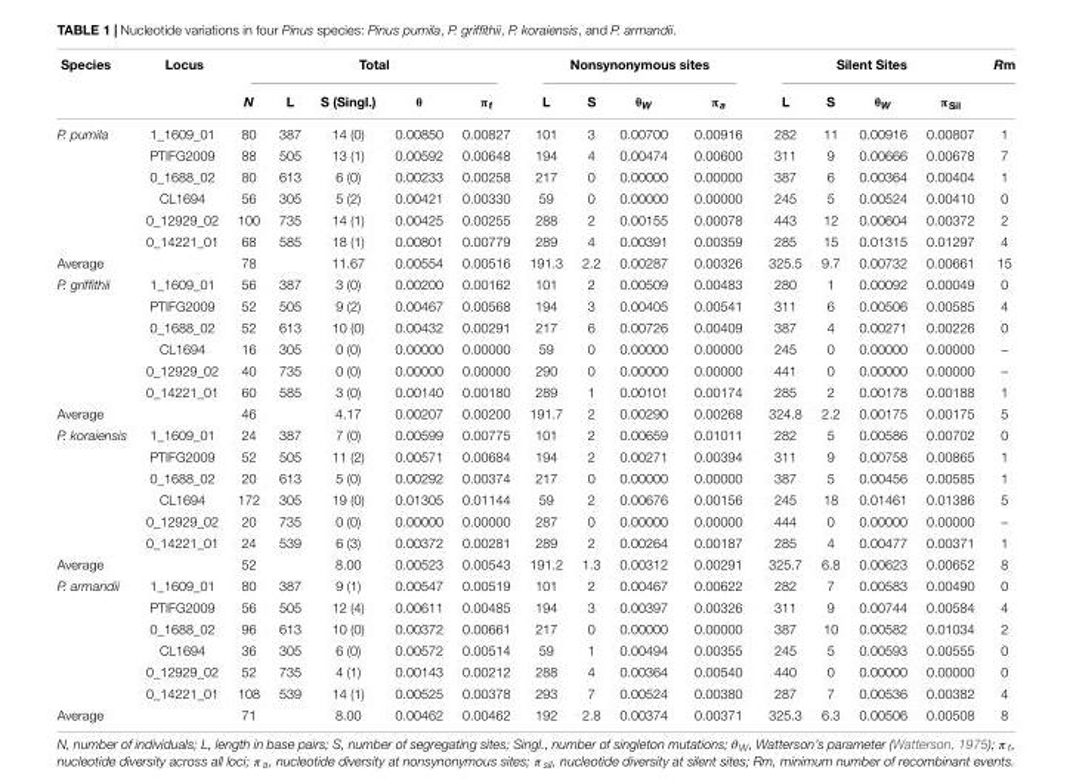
<table><thead><tr><td rowspan="2">Species</td><td rowspan="2">Locus</td><td colspan="5">Total</td><td colspan="4">Nonsynonymous sites</td><td colspan="4">Silent Sites</td><td rowspan="2">Rm</td></tr><tr><td>N</td><td>L</td><td>S (Singl.)</td><td>θ</td><td>π<sub>t</sub></td><td>L</td><td>S</td><td>θ<sub>W</sub></td><td>π<sub>a</sub></td><td>L</td><td>S</td><td>θ<sub>W</sub></td><td>π<sub>Sil</sub></td></tr></thead><tbody><tr><td rowspan="6">P. pumila</td><td>1_1609_01</td><td>80</td><td>387</td><td>14 (0)</td><td>0.00850</td><td>0.00827</td><td>101</td><td>3</td><td>0.00700</td><td>0.00916</td><td>282</td><td>11</td><td>0.00916</td><td>0.00807</td><td>1</td></tr><tr><td>PTIFG2009</td><td>88</td><td>505</td><td>13 (1)</td><td>0.00592</td><td>0.00648</td><td>194</td><td>4</td><td>0.00474</td><td>0.00600</td><td>311</td><td>9</td><td>0.00666</td><td>0.00678</td><td>7</td></tr><tr><td>0_1688_02</td><td>80</td><td>613</td><td>6 (0)</td><td>0.00233</td><td>0.00258</td><td>217</td><td>0</td><td>0.00000</td><td>0.00000</td><td>387</td><td>6</td><td>0.00364</td><td>0.00404</td><td>1</td></tr><tr><td>CL1694</td><td>56</td><td>305</td><td>5 (2)</td><td>0.00421</td><td>0.00330</td><td>59</td><td>0</td><td>0.00000</td><td>0.00000</td><td>245</td><td>5</td><td>0.00524</td><td>0.00410</td><td>0</td></tr><tr><td>0_12929_02</td><td>100</td><td>735</td><td>14 (1)</td><td>0.00425</td><td>0.00255</td><td>288</td><td>2</td><td>0.00155</td><td>0.00078</td><td>443</td><td>12</td><td>0.00604</td><td>0.00372</td><td>2</td></tr><tr><td>0_14221_01</td><td>68</td><td>585</td><td>18 (1)</td><td>0.00801</td><td>0.00779</td><td>289</td><td>4</td><td>0.00391</td><td>0.00359</td><td>285</td><td>15</td><td>0.01315</td><td>0.01297</td><td>4</td></tr><tr><td>Average</td><td></td><td>78</td><td></td><td>11.67</td><td>0.00554</td><td>0.00516</td><td>191.3</td><td>2.2</td><td>0.00287</td><td>0.00326</td><td>325.5</td><td>9.7</td><td>0.00732</td><td>0.00661</td><td>15</td></tr><tr><td rowspan="6">P. griffithii</td><td>1_1609_01</td><td>56</td><td>387</td><td>3 (0)</td><td>0.00200</td><td>0.00162</td><td>101</td><td>2</td><td>0.00509</td><td>0.00483</td><td>280</td><td>1</td><td>0.00092</td><td>0.00049</td><td>0</td></tr><tr><td>PTIFG2009</td><td>52</td><td>505</td><td>9 (2)</td><td>0.00467</td><td>0.00568</td><td>194</td><td>3</td><td>0.00405</td><td>0.00541</td><td>311</td><td>6</td><td>0.00506</td><td>0.00585</td><td>4</td></tr><tr><td>0_1688_02</td><td>52</td><td>613</td><td>10 (0)</td><td>0.00432</td><td>0.00291</td><td>217</td><td>6</td><td>0.00726</td><td>0.00409</td><td>387</td><td>4</td><td>0.00271</td><td>0.00226</td><td>0</td></tr><tr><td>CL1694</td><td>16</td><td>305</td><td>0 (0)</td><td>0.00000</td><td>0.00000</td><td>59</td><td>0</td><td>0.00000</td><td>0.00000</td><td>245</td><td>0</td><td>0.00000</td><td>0.00000</td><td>–</td></tr><tr><td>0_12929_02</td><td>40</td><td>735</td><td>0 (0)</td><td>0.00000</td><td>0.00000</td><td>290</td><td>0</td><td>0.00000</td><td>0.00000</td><td>441</td><td>0</td><td>0.00000</td><td>0.00000</td><td>–</td></tr><tr><td>0_14221_01</td><td>60</td><td>585</td><td>3 (0)</td><td>0.00140</td><td>0.00180</td><td>289</td><td>1</td><td>0.00101</td><td>0.00174</td><td>285</td><td>2</td><td>0.00178</td><td>0.00188</td><td>1</td></tr><tr><td>Average</td><td></td><td>46</td><td></td><td>4.17</td><td>0.00207</td><td>0.00200</td><td>191.7</td><td>2</td><td>0.00290</td><td>0.00268</td><td>324.8</td><td>2.2</td><td>0.00175</td><td>0.00175</td><td>5</td></tr><tr><td rowspan="6">P. koraiensis</td><td>1_1609_01</td><td>24</td><td>387</td><td>7 (0)</td><td>0.00599</td><td>0.00775</td><td>101</td><td>2</td><td>0.00659</td><td>0.01011</td><td>282</td><td>5</td><td>0.00586</td><td>0.00702</td><td>0</td></tr><tr><td>PTIFG2009</td><td>52</td><td>505</td><td>11 (2)</td><td>0.00571</td><td>0.00684</td><td>194</td><td>2</td><td>0.00271</td><td>0.00394</td><td>311</td><td>9</td><td>0.00758</td><td>0.00865</td><td>1</td></tr><tr><td>0_1688_02</td><td>20</td><td>613</td><td>5 (0)</td><td>0.00292</td><td>0.00374</td><td>217</td><td>0</td><td>0.00000</td><td>0.00000</td><td>387</td><td>5</td><td>0.00456</td><td>0.00585</td><td>1</td></tr><tr><td>CL1694</td><td>172</td><td>305</td><td>19 (0)</td><td>0.01305</td><td>0.01144</td><td>59</td><td>2</td><td>0.00676</td><td>0.00156</td><td>245</td><td>18</td><td>0.01461</td><td>0.01386</td><td>5</td></tr><tr><td>0_12929_02</td><td>20</td><td>735</td><td>0 (0)</td><td>0.00000</td><td>0.00000</td><td>287</td><td>0</td><td>0.00000</td><td>0.00000</td><td>444</td><td>0</td><td>0.00000</td><td>0.00000</td><td>–</td></tr><tr><td>0_14221_01</td><td>24</td><td>539</td><td>6 (3)</td><td>0.00372</td><td>0.00281</td><td>289</td><td>2</td><td>0.00264</td><td>0.00187</td><td>285</td><td>4</td><td>0.00477</td><td>0.00371</td><td>1</td></tr><tr><td>Average</td><td></td><td>52</td><td></td><td>8.00</td><td>0.00523</td><td>0.00543</td><td>191.2</td><td>1.3</td><td>0.00312</td><td>0.00291</td><td>325.7</td><td>6.8</td><td>0.00623</td><td>0.00652</td><td>8</td></tr><tr><td rowspan="6">P. armandii</td><td>1_1609_01</td><td>80</td><td>387</td><td>9 (1)</td><td>0.00547</td><td>0.00519</td><td>101</td><td>2</td><td>0.00467</td><td>0.00622</td><td>282</td><td>7</td><td>0.00583</td><td>0.00490</td><td>0</td></tr><tr><td>PTIFG2009</td><td>56</td><td>505</td><td>12 (4)</td><td>0.00611</td><td>0.00485</td><td>194</td><td>3</td><td>0.00397</td><td>0.00326</td><td>311</td><td>9</td><td>0.00744</td><td>0.00584</td><td>4</td></tr><tr><td>0_1688_02</td><td>96</td><td>613</td><td>10 (0)</td><td>0.00372</td><td>0.00661</td><td>217</td><td>0</td><td>0.00000</td><td>0.00000</td><td>387</td><td>10</td><td>0.00582</td><td>0.01034</td><td>2</td></tr><tr><td>CL1694</td><td>36</td><td>305</td><td>6 (0)</td><td>0.00572</td><td>0.00514</td><td>59</td><td>1</td><td>0.00494</td><td>0.00355</td><td>245</td><td>5</td><td>0.00593</td><td>0.00555</td><td>0</td></tr><tr><td>0_12929_02</td><td>52</td><td>735</td><td>4 (1)</td><td>0.00143</td><td>0.00212</td><td>288</td><td>4</td><td>0.00364</td><td>0.00540</td><td>440</td><td>0</td><td>0.00000</td><td>0.00000</td><td>0</td></tr><tr><td>0_14221_01</td><td>108</td><td>539</td><td>14 (1)</td><td>0.00525</td><td>0.00378</td><td>293</td><td>7</td><td>0.00524</td><td>0.00380</td><td>287</td><td>7</td><td>0.00536</td><td>0.00382</td><td>4</td></tr><tr><td>Average</td><td></td><td>71</td><td></td><td>8.00</td><td>0.00462</td><td>0.00462</td><td>192</td><td>2.8</td><td>0.00374</td><td>0.00371</td><td>325.3</td><td>6.3</td><td>0.00506</td><td>0.00508</td><td>8</td></tr></tbody></table>